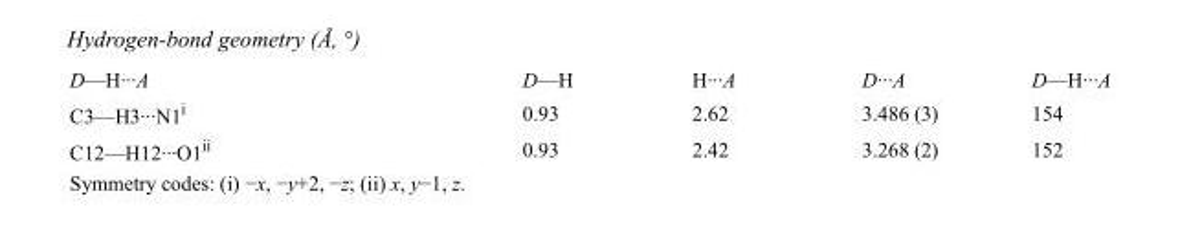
<table><tbody><tr><td>D—H···A</td><td>D—H</td><td>H···A</td><td>D···A</td><td>D—H···A</td></tr><tr><td>C3—H3···N1<sup>i</sup></td><td>0.93</td><td>2.62</td><td>3.486 (3)</td><td>154</td></tr><tr><td>C12—H12···O1<sup>ii</sup></td><td>0.93</td><td>2.42</td><td>3.268 (2)</td><td>152</td></tr></tbody></table>